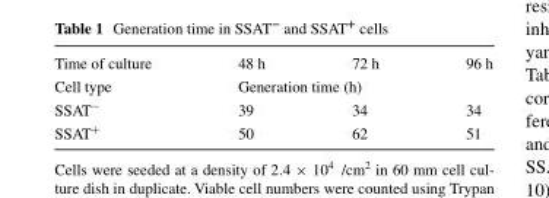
<table><tbody><tr><td>Time of culture</td><td>48 h</td><td>72 h</td><td>96 h</td></tr><tr><td>Cell type</td><td colspan="3">Generation time (h)</td></tr><tr><td>SSAT<sup>−</sup></td><td>39</td><td>34</td><td>34</td></tr><tr><td>SSAT<sup>+</sup></td><td>50</td><td>62</td><td>51</td></tr></tbody></table>